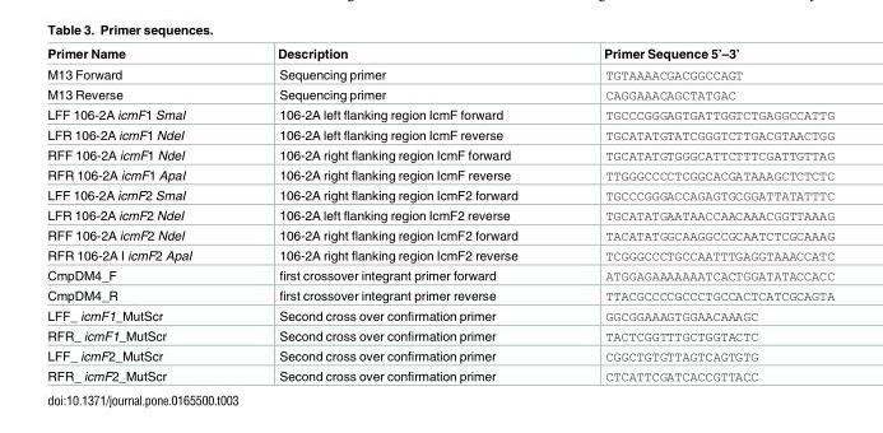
<table><thead><tr><td>Primer Name</td><td>Description</td><td>Primer Sequence 5’–3’</td></tr></thead><tbody><tr><td>M13 Forward</td><td>Sequencing primer</td><td>TGTAAAACGACGGCCAGT</td></tr><tr><td>M13 Reverse</td><td>Sequencing primer</td><td>CAGGAAACAGCTATGAC</td></tr><tr><td>LFF 106-2A icmF1 SmaI</td><td>106-2A left flanking region IcmF forward</td><td>TGCCCGGGAGTGATTGGTCTGAGGCCATTG</td></tr><tr><td>LFR 106-2A icmF1 NdeI</td><td>106-2A left flanking region IcmF reverse</td><td>TGCATATGTATCGGGTCTTGACGTAACTGG</td></tr><tr><td>RFF 106-2A icmF1 NdeI</td><td>106-2A right flanking region IcmF forward</td><td>TGCATATGTGGGCATTCTTTCGATTGTTAG</td></tr><tr><td>RFR 106-2A icmF1 ApaI</td><td>106-2A right flanking region IcmF reverse</td><td>TTGGGCCCCTCGGCACGATAAAGCTCTCTC</td></tr><tr><td>LFF 106-2A icmF2 SmaI</td><td>106-2A right flanking region IcmF2 forward</td><td>TGCCCGGGACCAGAGTGCGGATTATATTTC</td></tr><tr><td>LFR 106-2A icmF2 NdeI</td><td>106-2A left flanking region IcmF2 reverse</td><td>TGCATATGAATAACCAACAAACGGTTAAAG</td></tr><tr><td>RFF 106-2A icmF2 NdeI</td><td>106-2A right flanking region IcmF2 forward</td><td>TACATATGGCAAGGCCGCAATCTCGCAAAG</td></tr><tr><td>RFR 106-2A I icmF2 ApaI</td><td>106-2A right flanking region IcmF2 reverse</td><td>TCGGGCCCTGCCAATTTGAGGTAAACCATC</td></tr><tr><td>CmpDM4_F</td><td>first crossover integrant primer forward</td><td>ATGGAGAAAAAAATCACTGGATATACCACC</td></tr><tr><td>CmpDM4_R</td><td>first crossover integrant primer reverse</td><td>TTACGCCCCGCCCTGCCACTCATCGCAGTA</td></tr><tr><td>LFF_ icmF1_MutScr</td><td>Second cross over confirmation primer</td><td>GGCGGAAAGTGGAACAAAGC</td></tr><tr><td>RFR_ icmF1_MutScr</td><td>Second cross over confirmation primer</td><td>TACTCGGTTTGCTGGTACTC</td></tr><tr><td>LFF_ icmF2_MutScr</td><td>Second cross over confirmation primer</td><td>CGGCTGTGTTAGTCAGTGTG</td></tr><tr><td>RFR_ icmF2_MutScr</td><td>Second cross over confirmation primer</td><td>CTCATTCGATCACCGTTACC</td></tr></tbody></table>